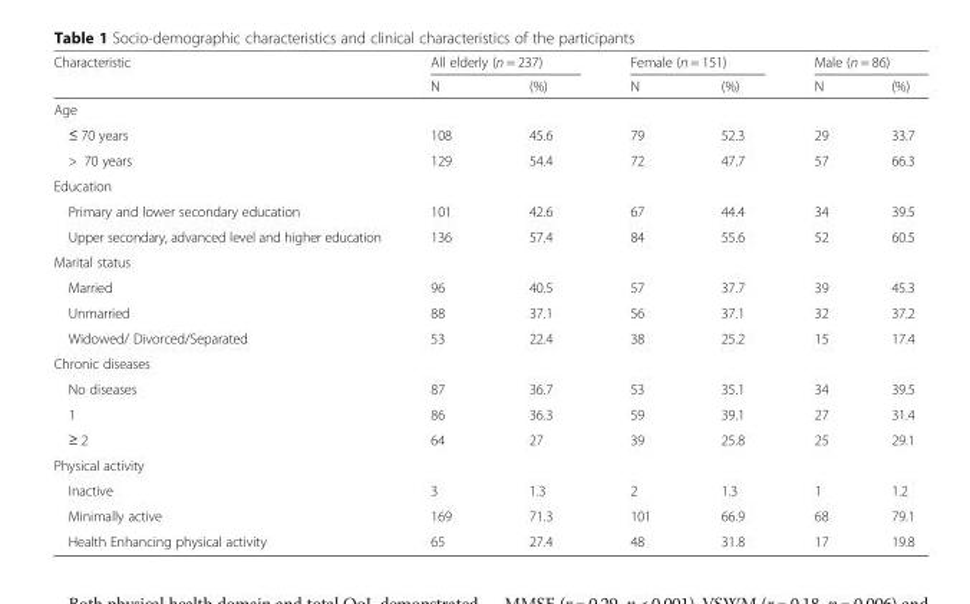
<table><thead><tr><td rowspan="2">Characteristic</td><td colspan="2">All elderly (n = 237)</td><td colspan="2">Female (n = 151)</td><td colspan="2">Male (n = 86)</td></tr><tr><td>N</td><td>(%)</td><td>N</td><td>(%)</td><td>N</td><td>(%)</td></tr></thead><tbody><tr><td colspan="7">Age</td></tr><tr><td>≤ 70 years</td><td>108</td><td>45.6</td><td>79</td><td>52.3</td><td>29</td><td>33.7</td></tr><tr><td>&gt; 70 years</td><td>129</td><td>54.4</td><td>72</td><td>47.7</td><td>57</td><td>66.3</td></tr><tr><td colspan="7">Education</td></tr><tr><td>Primary and lower secondary education</td><td>101</td><td>42.6</td><td>67</td><td>44.4</td><td>34</td><td>39.5</td></tr><tr><td>Upper secondary, advanced level and higher education</td><td>136</td><td>57.4</td><td>84</td><td>55.6</td><td>52</td><td>60.5</td></tr><tr><td colspan="7">Marital status</td></tr><tr><td>Married</td><td>96</td><td>40.5</td><td>57</td><td>37.7</td><td>39</td><td>45.3</td></tr><tr><td>Unmarried</td><td>88</td><td>37.1</td><td>56</td><td>37.1</td><td>32</td><td>37.2</td></tr><tr><td>Widowed/ Divorced/Separated</td><td>53</td><td>22.4</td><td>38</td><td>25.2</td><td>15</td><td>17.4</td></tr><tr><td colspan="7">Chronic diseases</td></tr><tr><td>No diseases</td><td>87</td><td>36.7</td><td>53</td><td>35.1</td><td>34</td><td>39.5</td></tr><tr><td>1</td><td>86</td><td>36.3</td><td>59</td><td>39.1</td><td>27</td><td>31.4</td></tr><tr><td>≥ 2</td><td>64</td><td>27</td><td>39</td><td>25.8</td><td>25</td><td>29.1</td></tr><tr><td colspan="7">Physical activity</td></tr><tr><td>Inactive</td><td>3</td><td>1.3</td><td>2</td><td>1.3</td><td>1</td><td>1.2</td></tr><tr><td>Minimally active</td><td>169</td><td>71.3</td><td>101</td><td>66.9</td><td>68</td><td>79.1</td></tr><tr><td>Health Enhancing physical activity</td><td>65</td><td>27.4</td><td>48</td><td>31.8</td><td>17</td><td>19.8</td></tr></tbody></table>